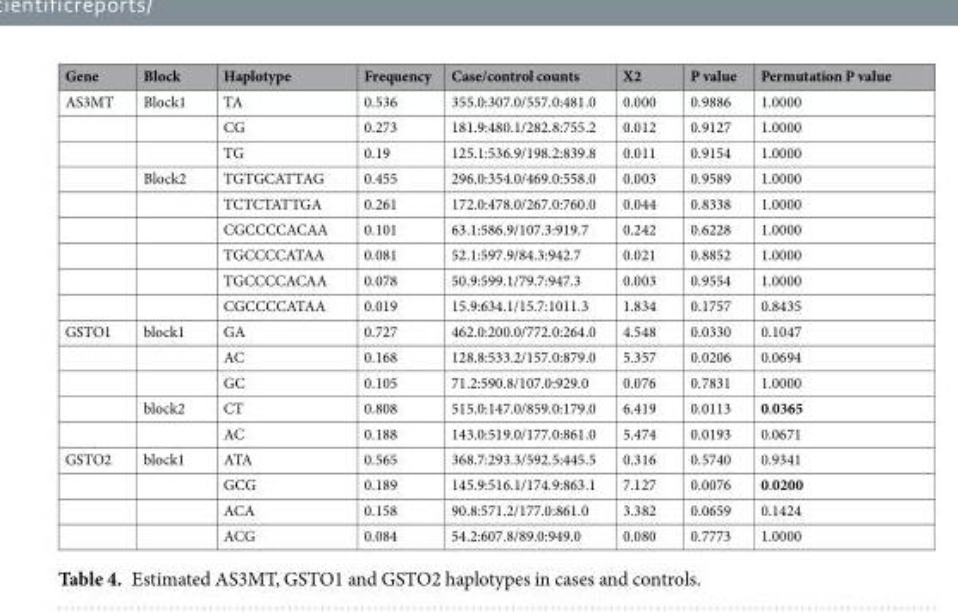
<table><thead><tr><td>Gene</td><td>Block</td><td>Haplotype</td><td>Frequency</td><td>Case/control counts</td><td>X2</td><td>P value</td><td>Permutation P value</td></tr></thead><tbody><tr><td rowspan="9">AS3MT</td><td>Block1</td><td>TA</td><td>0.536</td><td>355.0:307.0/557.0:481.0</td><td>0.000</td><td>0.9886</td><td>1.0000</td></tr><tr><td></td><td>CG</td><td>0.273</td><td>181.9:480.1/282.8:755.2</td><td>0.012</td><td>0.9127</td><td>1.0000</td></tr><tr><td></td><td>TG</td><td>0.19</td><td>125.1:536.9/198.2:839.8</td><td>0.011</td><td>0.9154</td><td>1.0000</td></tr><tr><td>Block2</td><td>TGTGCATTAG</td><td>0.455</td><td>296.0:354.0/469.0:558.0</td><td>0.003</td><td>0.9589</td><td>1.0000</td></tr><tr><td></td><td>TCTCTATTGA</td><td>0.261</td><td>172.0:478.0/267.0:760.0</td><td>0.044</td><td>0.8338</td><td>1.0000</td></tr><tr><td></td><td>CGCCCCACAA</td><td>0.101</td><td>63.1:586.9/107.3:919.7</td><td>0.242</td><td>0.6228</td><td>1.0000</td></tr><tr><td></td><td>TGCCCCATAA</td><td>0.081</td><td>52.1:597.9/84.3:942.7</td><td>0.021</td><td>0.8852</td><td>1.0000</td></tr><tr><td></td><td>TGCCCCACAA</td><td>0.078</td><td>50.9:599.1/79.7:947.3</td><td>0.003</td><td>0.9554</td><td>1.0000</td></tr><tr><td></td><td>CGCCCCATAA</td><td>0.019</td><td>15.9:634.1/15.7:1011.3</td><td>1.834</td><td>0.1757</td><td>0.8435</td></tr><tr><td rowspan="5">GSTO1</td><td>block1</td><td>GA</td><td>0.727</td><td>462.0:200.0/772.0:264.0</td><td>4.548</td><td>0.0330</td><td>0.1047</td></tr><tr><td></td><td>AC</td><td>0.168</td><td>128.8:533.2/157.0:879.0</td><td>5.357</td><td>0.0206</td><td>0.0694</td></tr><tr><td></td><td>GC</td><td>0.105</td><td>71.2:590.8/107.0:929.0</td><td>0.076</td><td>0.7831</td><td>1.0000</td></tr><tr><td>block2</td><td>CT</td><td>0.808</td><td>515.0:147.0/859.0:179.0</td><td>6.419</td><td>0.0113</td><td>0.0365</td></tr><tr><td></td><td>AC</td><td>0.188</td><td>143.0:519.0/177.0:861.0</td><td>5.474</td><td>0.0193</td><td>0.0671</td></tr><tr><td rowspan="4">GSTO2</td><td>block1</td><td>ATA</td><td>0.565</td><td>368.7:293.3/592.5:445.5</td><td>0.316</td><td>0.5740</td><td>0.9341</td></tr><tr><td></td><td>GCG</td><td>0.189</td><td>145.9:516.1/174.9:863.1</td><td>7.127</td><td>0.0076</td><td>0.0200</td></tr><tr><td></td><td>ACA</td><td>0.158</td><td>90.8:571.2/177.0:861.0</td><td>3.382</td><td>0.0659</td><td>0.1424</td></tr><tr><td></td><td>ACG</td><td>0.084</td><td>54.2:607.8/89.0:949.0</td><td>0.080</td><td>0.7773</td><td>1.0000</td></tr></tbody></table>